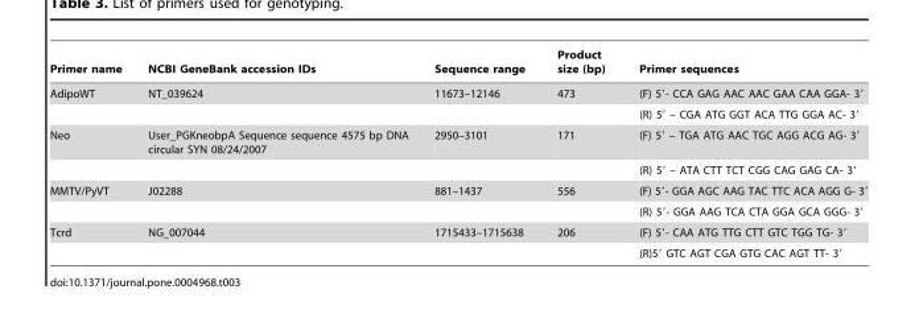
<table><thead><tr><td>Primer name</td><td>NCBI GeneBank accession IDs</td><td>Sequence range</td><td>Product size (bp)</td><td>Primer sequences</td></tr></thead><tbody><tr><td rowspan="2">AdipoWT</td><td>NT_039624</td><td>11673–12146</td><td>473</td><td>(F) 5′- CCA GAG AAC AAC GAA CAA GGA- 3′</td></tr><tr><td></td><td></td><td></td><td>(R) 5′ – CGA ATG GGT ACA TTG GGA AC- 3′</td></tr><tr><td rowspan="2">Neo</td><td>User_PGKneobpA Sequence sequence 4575 bp DNA circular SYN 08/24/2007</td><td>2950–3101</td><td>171</td><td>(F) 5′ – TGA ATG AAC TGC AGG ACG AG- 3′</td></tr><tr><td></td><td></td><td></td><td>(R) 5′ – ATA CTT TCT CGG CAG GAG CA- 3′</td></tr><tr><td rowspan="2">MMTV/PyVT</td><td>J02288</td><td>881–1437</td><td>556</td><td>(F) 5′- GGA AGC AAG TAC TTC ACA AGG G- 3′</td></tr><tr><td></td><td></td><td></td><td>(R) 5′- GGA AAG TCA CTA GGA GCA GGG- 3′</td></tr><tr><td rowspan="2">Tcrd</td><td>NG_007044</td><td>1715433–1715638</td><td>206</td><td>(F) 5′- CAA ATG TTG CTT GTC TGG TG- 3′</td></tr><tr><td></td><td></td><td></td><td>(R)5′ GTC AGT CGA GTG CAC AGT TT- 3′</td></tr></tbody></table>